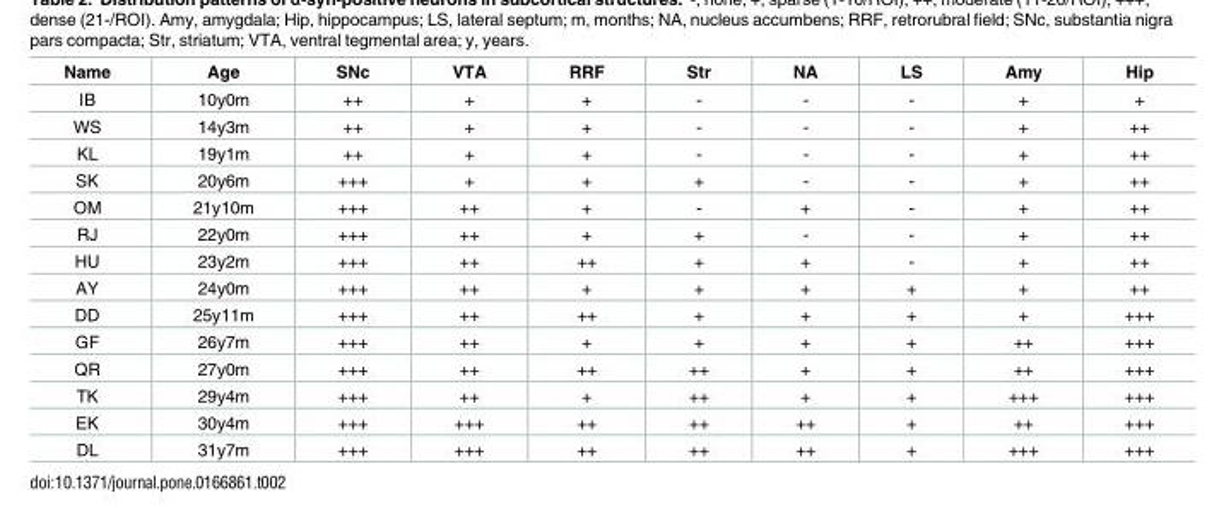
<table><thead><tr><td>Name</td><td>Age</td><td>SNc</td><td>VTA</td><td>RRF</td><td>Str</td><td>NA</td><td>LS</td><td>Amy</td><td>Hip</td></tr></thead><tbody><tr><td>IB</td><td>10y0m</td><td>++</td><td>+</td><td>+</td><td>-</td><td>-</td><td>-</td><td>+</td><td>+</td></tr><tr><td>WS</td><td>14y3m</td><td>++</td><td>+</td><td>+</td><td>-</td><td>-</td><td>-</td><td>+</td><td>++</td></tr><tr><td>KL</td><td>19y1m</td><td>++</td><td>+</td><td>+</td><td>-</td><td>-</td><td>-</td><td>+</td><td>++</td></tr><tr><td>SK</td><td>20y6m</td><td>+++</td><td>+</td><td>+</td><td>+</td><td>-</td><td>-</td><td>+</td><td>++</td></tr><tr><td>OM</td><td>21y10m</td><td>+++</td><td>++</td><td>+</td><td>-</td><td>+</td><td>-</td><td>+</td><td>++</td></tr><tr><td>RJ</td><td>22y0m</td><td>+++</td><td>++</td><td>+</td><td>+</td><td>-</td><td>-</td><td>+</td><td>++</td></tr><tr><td>HU</td><td>23y2m</td><td>+++</td><td>++</td><td>++</td><td>+</td><td>+</td><td>-</td><td>+</td><td>++</td></tr><tr><td>AY</td><td>24y0m</td><td>+++</td><td>++</td><td>+</td><td>+</td><td>+</td><td>+</td><td>+</td><td>++</td></tr><tr><td>DD</td><td>25y11m</td><td>+++</td><td>++</td><td>++</td><td>+</td><td>+</td><td>+</td><td>+</td><td>+++</td></tr><tr><td>GF</td><td>26y7m</td><td>+++</td><td>++</td><td>+</td><td>+</td><td>+</td><td>+</td><td>++</td><td>+++</td></tr><tr><td>QR</td><td>27y0m</td><td>+++</td><td>++</td><td>++</td><td>++</td><td>+</td><td>+</td><td>++</td><td>+++</td></tr><tr><td>TK</td><td>29y4m</td><td>+++</td><td>++</td><td>+</td><td>++</td><td>+</td><td>+</td><td>+++</td><td>+++</td></tr><tr><td>EK</td><td>30y4m</td><td>+++</td><td>+++</td><td>++</td><td>++</td><td>++</td><td>+</td><td>++</td><td>+++</td></tr><tr><td>DL</td><td>31y7m</td><td>+++</td><td>+++</td><td>++</td><td>++</td><td>++</td><td>+</td><td>+++</td><td>+++</td></tr></tbody></table>